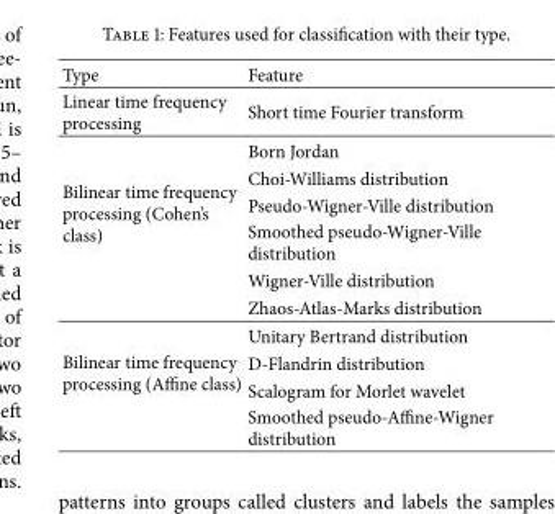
<table><thead><tr><td>Type</td><td>Feature</td></tr></thead><tbody><tr><td>Linear time frequency processing</td><td>Short time Fourier transform</td></tr><tr><td rowspan="6">Bilinear time frequency processing (Cohen’s class)</td><td>Born Jordan</td></tr><tr><td>Choi-Williams distribution</td></tr><tr><td>Pseudo-Wigner-Ville distribution</td></tr><tr><td>Smoothed pseudo-Wigner-Ville distribution</td></tr><tr><td>Wigner-Ville distribution</td></tr><tr><td>Zhaos-Atlas-Marks distribution</td></tr><tr><td rowspan="4">Bilinear time frequency processing (Affine class)</td><td>Unitary Bertrand distribution</td></tr><tr><td>D-Flandrin distribution</td></tr><tr><td>Scalogram for Morlet wavelet</td></tr><tr><td>Smoothed pseudo-Affine-Wigner distribution</td></tr></tbody></table>